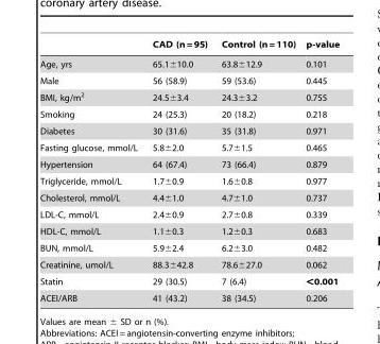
<table><thead><tr><td></td><td>CAD (n = 95)</td><td>Control (n = 110)</td><td>p-value</td></tr></thead><tbody><tr><td>Age, yrs</td><td>65.1±10.0</td><td>63.8±12.9</td><td>0.101</td></tr><tr><td>Male</td><td>56 (58.9)</td><td>59 (53.6)</td><td>0.445</td></tr><tr><td>BMI, kg/m<sup>2</sup></td><td>24.5±3.4</td><td>24.3±3.2</td><td>0.755</td></tr><tr><td>Smoking</td><td>24 (25.3)</td><td>20 (18.2)</td><td>0.218</td></tr><tr><td>Diabetes</td><td>30 (31.6)</td><td>35 (31.8)</td><td>0.971</td></tr><tr><td>Fasting glucose, mmol/L</td><td>5.8±2.0</td><td>5.7±1.5</td><td>0.465</td></tr><tr><td>Hypertension</td><td>64 (67.4)</td><td>73 (66.4)</td><td>0.879</td></tr><tr><td>Triglyceride, mmol/L</td><td>1.7±0.9</td><td>1.6±0.8</td><td>0.977</td></tr><tr><td>Cholesterol, mmol/L</td><td>4.4±1.0</td><td>4.7±1.0</td><td>0.737</td></tr><tr><td>LDL-C, mmol/L</td><td>2.4±0.9</td><td>2.7±0.8</td><td>0.339</td></tr><tr><td>HDL-C, mmol/L</td><td>1.1±0.3</td><td>1.2±0.3</td><td>0.683</td></tr><tr><td>BUN, mmol/L</td><td>5.9±2.4</td><td>6.2±3.0</td><td>0.482</td></tr><tr><td>Creatinine, umol/L</td><td>88.3±42.8</td><td>78.6±27.0</td><td>0.062</td></tr><tr><td>Statin</td><td>29 (30.5)</td><td>7 (6.4)</td><td>&lt;0.001</td></tr><tr><td>ACEI/ARB</td><td>41 (43.2)</td><td>38 (34.5)</td><td>0.206</td></tr></tbody></table>